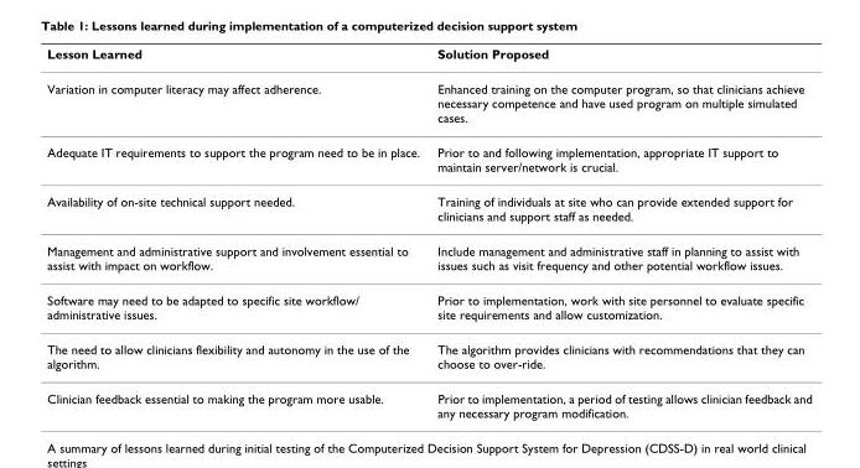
<table><thead><tr><td>Lesson Learned</td><td>Solution Proposed</td></tr></thead><tbody><tr><td>Variation in computer literacy may affect adherence.</td><td>Enhanced training on the computer program, so that clinicians achieve necessary competence and have used program on multiple simulated cases.</td></tr><tr><td>Adequate IT requirements to support the program need to be in place.</td><td>Prior to and following implementation, appropriate IT support to maintain server/network is crucial.</td></tr><tr><td>Availability of on-site technical support needed.</td><td>Training of individuals at site who can provide extended support for clinicians and support staff as needed.</td></tr><tr><td>Management and administrative support and involvement essential to assist with impact on workflow.</td><td>Include management and administrative staff in planning to assist with issues such as visit frequency and other potential workflow issues.</td></tr><tr><td>Software may need to be adapted to specific site workflow/ administrative issues.</td><td>Prior to implementation, work with site personnel to evaluate specific site requirements and allow customization.</td></tr><tr><td>The need to allow clinicians flexibility and autonomy in the use of the algorithm.</td><td>The algorithm provides clinicians with recommendations that they can choose to over-ride.</td></tr><tr><td>Clinician feedback essential to making the program more usable.</td><td>Prior to implementation, a period of testing allows clinician feedback and any necessary program modification.</td></tr></tbody></table>